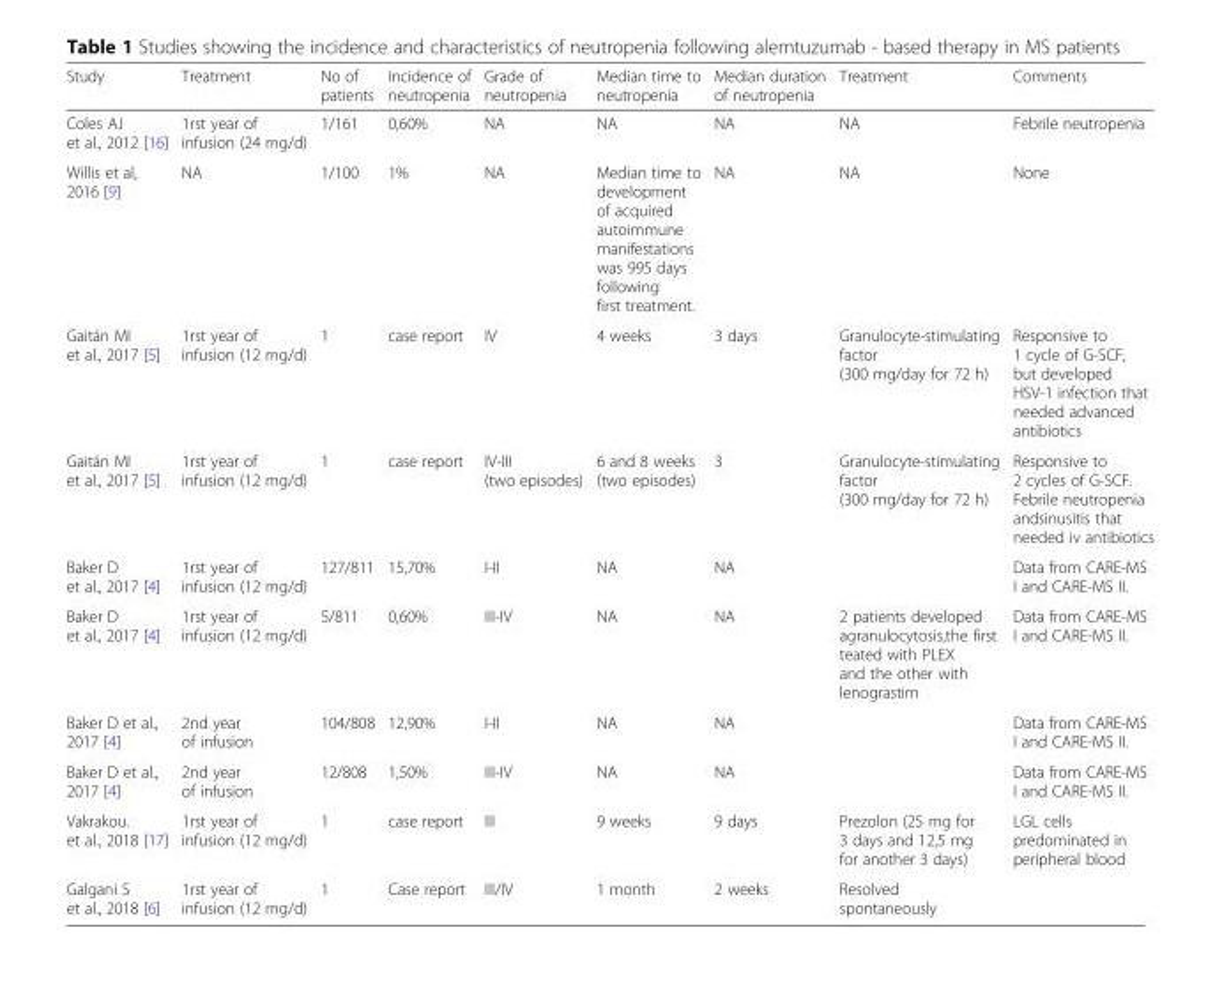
<table><thead><tr><td>Study</td><td>Treatment</td><td>No of patients</td><td>Incidence of neutropenia</td><td>Grade of neutropenia</td><td>Median time to neutropenia</td><td>Median duration of neutropenia</td><td>Treatment</td><td>Comments</td></tr></thead><tbody><tr><td>Coles AJ et al., 2012 [16]</td><td>1rst year of infusion (24 mg/d)</td><td>1/161</td><td>0,60%</td><td>NA</td><td>NA</td><td>NA</td><td>NA</td><td>Febrile neutropenia</td></tr><tr><td>Willis et al, 2016 [9]</td><td>NA</td><td>1/100</td><td>1%</td><td>NA</td><td>Median time to development of acquired autoimmune manifestations was 995 days following first treatment.</td><td>NA</td><td>NA</td><td>None</td></tr><tr><td>Gaitán MI et al., 2017 [5]</td><td>1rst year of infusion (12 mg/d)</td><td>1</td><td>case report</td><td>IV</td><td>4 weeks</td><td>3 days</td><td>Granulocyte-stimulating factor (300 mg/day for 72 h)</td><td>Responsive to 1 cycle of G-SCF, but developed HSV-1 infection that needed advanced antibiotics</td></tr><tr><td>Gaitán MI et al., 2017 [5]</td><td>1rst year of infusion (12 mg/d)</td><td>1</td><td>case report</td><td>IV-III (two episodes)</td><td>6 and 8 weeks (two episodes)</td><td>3</td><td>Granulocyte-stimulating factor (300 mg/day for 72 h)</td><td>Responsive to 2 cycles of G-SCF. Febrile neutropenia andsinusitis that needed iv antibiotics</td></tr><tr><td>Baker D et al., 2017 [4]</td><td>1rst year of infusion (12 mg/d)</td><td>127/811</td><td>15,70%</td><td>I-II</td><td>NA</td><td>NA</td><td></td><td>Data from CARE-MS I and CARE-MS II.</td></tr><tr><td>Baker D et al., 2017 [4]</td><td>1rst year of infusion (12 mg/d)</td><td>5/811</td><td>0,60%</td><td>III-IV</td><td>NA</td><td>NA</td><td>2 patients developed agranulocytosis,the first teated with PLEX and the other with lenograstim</td><td>Data from CARE-MS I and CARE-MS II.</td></tr><tr><td>Baker D et al., 2017 [4]</td><td>2nd year of infusion</td><td>104/808</td><td>12,90%</td><td>I-II</td><td>NA</td><td>NA</td><td></td><td>Data from CARE-MS I and CARE-MS II.</td></tr><tr><td>Baker D et al., 2017 [4]</td><td>2nd year of infusion</td><td>12/808</td><td>1,50%</td><td>III-IV</td><td>NA</td><td>NA</td><td></td><td>Data from CARE-MS I and CARE-MS II.</td></tr><tr><td>Vakrakou. et al., 2018 [17]</td><td>1rst year of infusion (12 mg/d)</td><td>1</td><td>case report</td><td>III</td><td>9 weeks</td><td>9 days</td><td>Prezolon (25 mg for 3 days and 12,5 mg for another 3 days)</td><td>LGL cells predominated in peripheral blood</td></tr><tr><td>Galgani S et al., 2018 [6]</td><td>1rst year of infusion (12 mg/d)</td><td>1</td><td>Case report</td><td>III/IV</td><td>1 month</td><td>2 weeks</td><td>Resolved spontaneously</td><td></td></tr></tbody></table>